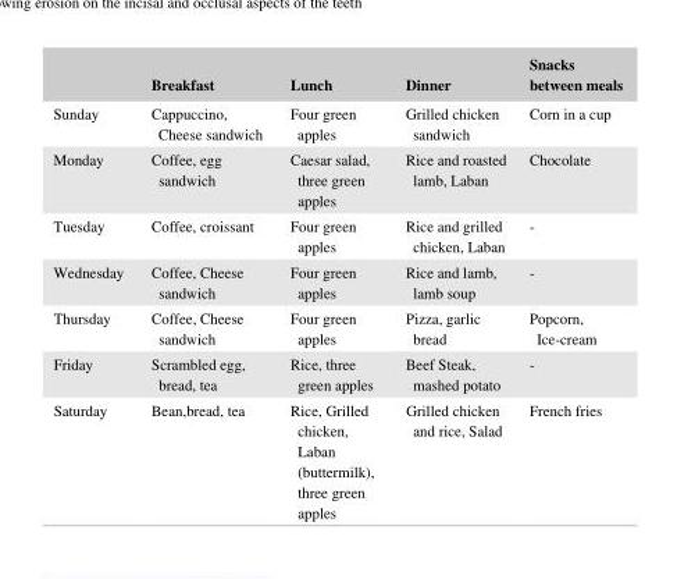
<table><thead><tr><td></td><td>Breakfast</td><td>Lunch</td><td>Dinner</td><td>Snacks between meals</td></tr></thead><tbody><tr><td>Sunday</td><td>Cappuccino, Cheese sandwich</td><td>Four green apples</td><td>Grilled chicken sandwich</td><td>Corn in a cup</td></tr><tr><td>Monday</td><td>Coffee, egg sandwich</td><td>Caesar salad, three green apples</td><td>Rice and roasted lamb, Laban</td><td>Chocolate</td></tr><tr><td>Tuesday</td><td>Coffee, croissant</td><td>Four green apples</td><td>Rice and grilled chicken, Laban</td><td>-</td></tr><tr><td>Wednesday</td><td>Coffee, Cheese sandwich</td><td>Four green apples</td><td>Rice and lamb, lamb soup</td><td>-</td></tr><tr><td>Thursday</td><td>Coffee, Cheese sandwich</td><td>Four green apples</td><td>Pizza, garlic bread</td><td>Popcorn, Ice- cream</td></tr><tr><td>Friday</td><td>Scrambled egg, bread, tea</td><td>Rice, three green apples</td><td>Beef Steak, mashed potato</td><td>-</td></tr><tr><td>Saturday</td><td>Bean,bread, tea</td><td>Rice, Grilled chicken, Laban (buttermilk), three green apples</td><td>Grilled chicken and rice, Salad</td><td>French fries</td></tr></tbody></table>